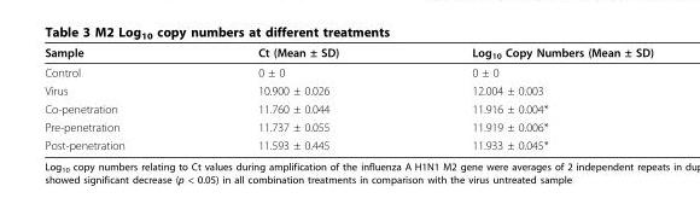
<table><thead><tr><td>Sample</td><td>Ct (Mean ± SD)</td><td>Log<sub>10</sub> Copy Numbers (Mean ± SD)</td></tr></thead><tbody><tr><td>Control</td><td>0 ± 0</td><td>0 ± 0</td></tr><tr><td>Virus</td><td>10.900 ± 0.026</td><td>12.004 ± 0.003</td></tr><tr><td>Co-penetration</td><td>11.760 ± 0.044</td><td>11.916 ± 0.004*</td></tr><tr><td>Pre-penetration</td><td>11.737 ± 0.055</td><td>11.919 ± 0.006*</td></tr><tr><td>Post-penetration</td><td>11.593 ± 0.445</td><td>11.933 ± 0.045*</td></tr></tbody></table>